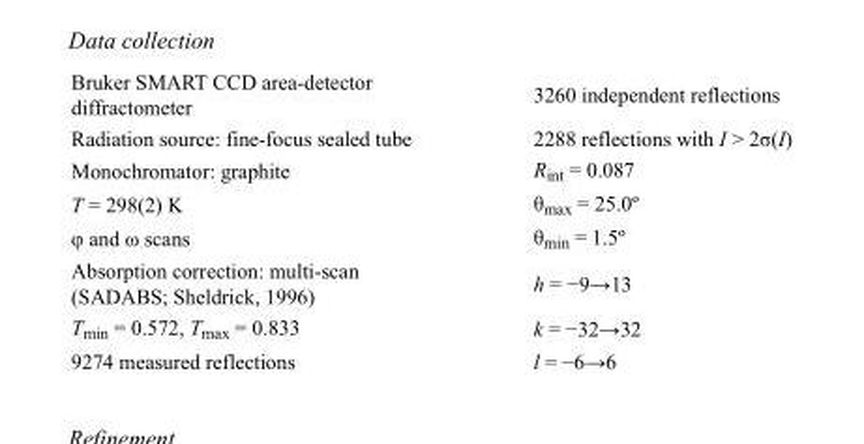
<table><tbody><tr><td>Bruker SMART CCD area-detector diffractometer</td><td>3260 independent reflections</td></tr><tr><td>Radiation source: fine-focus sealed tube</td><td>2288 reflections with I &gt; 2σ(I)</td></tr><tr><td>Monochromator: graphite</td><td>R<sub>int</sub> = 0.087</td></tr><tr><td>T = 298(2) K</td><td>θ<sub>max</sub> = 25.0º</td></tr><tr><td>φ and ω scans</td><td>θ<sub>min</sub> = 1.5º</td></tr><tr><td>Absorption correction: multi-scan (SADABS; Sheldrick, 1996)</td><td>h = −9→13</td></tr><tr><td>T<sub>min</sub> = 0.572, T<sub>max</sub> = 0.833</td><td>k = −32→32</td></tr><tr><td>9274 measured reflections</td><td>l = −6→6</td></tr></tbody></table>